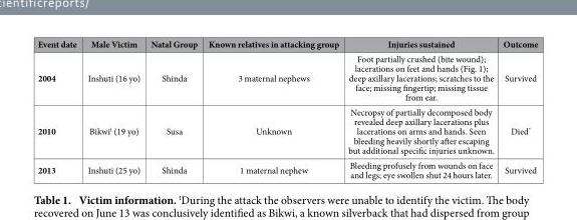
<table><thead><tr><td>Event date</td><td>Male Victim</td><td>Natal Group</td><td>Known relatives in attacking group</td><td>Injuries sustained</td><td>Outcome</td></tr></thead><tbody><tr><td>2004</td><td>Inshuti (16 yo)</td><td>Shinda</td><td>3 maternal nephews</td><td>Foot partially crushed (bite wound); lacerations on feet and hands (Fig. 1); deep axillary lacerations; scratches to the face; missing fingertip; missing tissue from ear.</td><td>Survived</td></tr><tr><td>2010</td><td>Bikwi<sup>t</sup> (19 yo)</td><td>Susa</td><td>Unknown</td><td>Necropsy of partially decomposed body revealed deep axillary lacerations plus lacerations on arms and hands. Seen bleeding heavily shortly after escaping but additional specific injuries unknown.</td><td>Died*</td></tr><tr><td>2013</td><td>Inshuti (25 yo)</td><td>Shinda</td><td>1 maternal nephew</td><td>Bleeding profusely from wounds on face and legs; eye swollen shut 24 hours later.</td><td>Survived</td></tr></tbody></table>